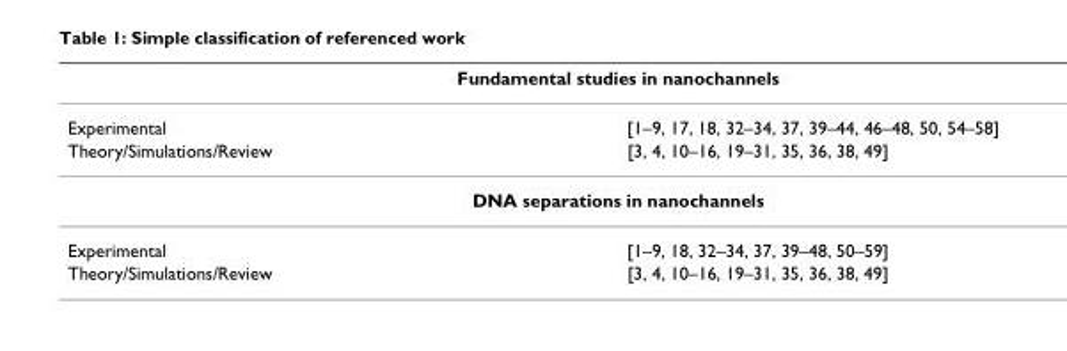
<table><thead><tr><td colspan="2">Fundamental studies in nanochannels</td></tr><tr><td>Experimental</td><td>[1–9, 17, 18, 32–34, 37, 39–44, 46–48, 50, 54–58]</td></tr></thead><tbody><tr><td>Theory/Simulations/Review</td><td>[3, 4, 10–16, 19–31, 35, 36, 38, 49]</td></tr><tr><td colspan="2">DNA separations in nanochannels</td></tr><tr><td>Experimental</td><td>[1–9, 18, 32–34, 37, 39–48, 50–59]</td></tr><tr><td>Theory/Simulations/Review</td><td>[3, 4, 10–16, 19–31, 35, 36, 38, 49]</td></tr></tbody></table>